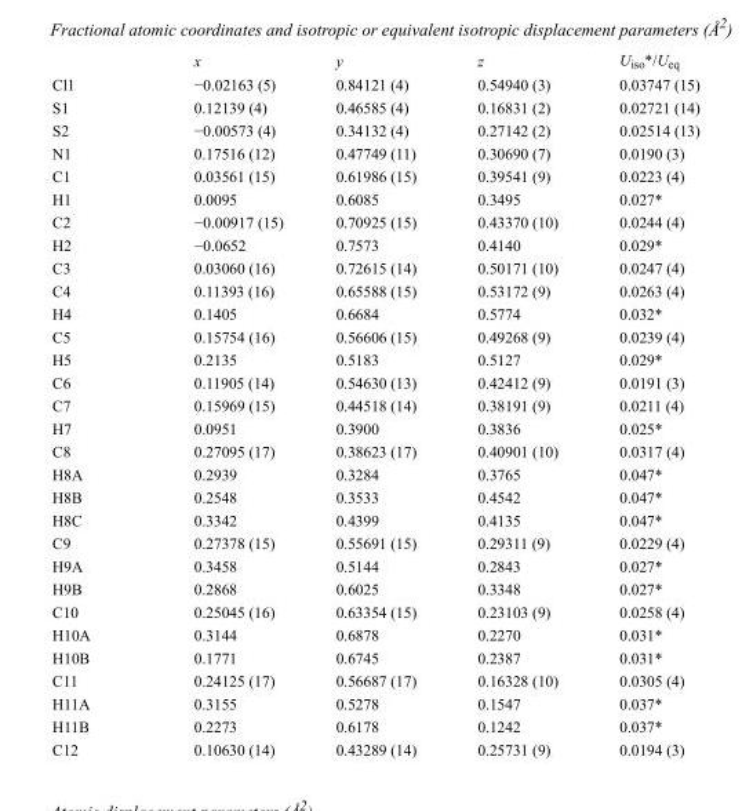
<table><thead><tr><td></td><td>x</td><td>y</td><td>z</td><td>U<sub>iso</sub>*/U<sub>eq</sub></td></tr></thead><tbody><tr><td>Cl1</td><td>−0.02163 (5)</td><td>0.84121 (4)</td><td>0.54940 (3)</td><td>0.03747 (15)</td></tr><tr><td>S1</td><td>0.12139 (4)</td><td>0.46585 (4)</td><td>0.16831 (2)</td><td>0.02721 (14)</td></tr><tr><td>S2</td><td>−0.00573 (4)</td><td>0.34132 (4)</td><td>0.27142 (2)</td><td>0.02514 (13)</td></tr><tr><td>N1</td><td>0.17516 (12)</td><td>0.47749 (11)</td><td>0.30690 (7)</td><td>0.0190 (3)</td></tr><tr><td>C1</td><td>0.03561 (15)</td><td>0.61986 (15)</td><td>0.39541 (9)</td><td>0.0223 (4)</td></tr><tr><td>H1</td><td>0.0095</td><td>0.6085</td><td>0.3495</td><td>0.027*</td></tr><tr><td>C2</td><td>−0.00917 (15)</td><td>0.70925 (15)</td><td>0.43370 (10)</td><td>0.0244 (4)</td></tr><tr><td>H2</td><td>−0.0652</td><td>0.7573</td><td>0.4140</td><td>0.029*</td></tr><tr><td>C3</td><td>0.03060 (16)</td><td>0.72615 (14)</td><td>0.50171 (10)</td><td>0.0247 (4)</td></tr><tr><td>C4</td><td>0.11393 (16)</td><td>0.65588 (15)</td><td>0.53172 (9)</td><td>0.0263 (4)</td></tr><tr><td>H4</td><td>0.1405</td><td>0.6684</td><td>0.5774</td><td>0.032*</td></tr><tr><td>C5</td><td>0.15754 (16)</td><td>0.56606 (15)</td><td>0.49268 (9)</td><td>0.0239 (4)</td></tr><tr><td>H5</td><td>0.2135</td><td>0.5183</td><td>0.5127</td><td>0.029*</td></tr><tr><td>C6</td><td>0.11905 (14)</td><td>0.54630 (13)</td><td>0.42412 (9)</td><td>0.0191 (3)</td></tr><tr><td>C7</td><td>0.15969 (15)</td><td>0.44518 (14)</td><td>0.38191 (9)</td><td>0.0211 (4)</td></tr><tr><td>H7</td><td>0.0951</td><td>0.3900</td><td>0.3836</td><td>0.025*</td></tr><tr><td>C8</td><td>0.27095 (17)</td><td>0.38623 (17)</td><td>0.40901 (10)</td><td>0.0317 (4)</td></tr><tr><td>H8A</td><td>0.2939</td><td>0.3284</td><td>0.3765</td><td>0.047*</td></tr><tr><td>H8B</td><td>0.2548</td><td>0.3533</td><td>0.4542</td><td>0.047*</td></tr><tr><td>H8C</td><td>0.3342</td><td>0.4399</td><td>0.4135</td><td>0.047*</td></tr><tr><td>C9</td><td>0.27378 (15)</td><td>0.55691 (15)</td><td>0.29311 (9)</td><td>0.0229 (4)</td></tr><tr><td>H9A</td><td>0.3458</td><td>0.5144</td><td>0.2843</td><td>0.027*</td></tr><tr><td>H9B</td><td>0.2868</td><td>0.6025</td><td>0.3348</td><td>0.027*</td></tr><tr><td>C10</td><td>0.25045 (16)</td><td>0.63354 (15)</td><td>0.23103 (9)</td><td>0.0258 (4)</td></tr><tr><td>H10A</td><td>0.3144</td><td>0.6878</td><td>0.2270</td><td>0.031*</td></tr><tr><td>H10B</td><td>0.1771</td><td>0.6745</td><td>0.2387</td><td>0.031*</td></tr><tr><td>C11</td><td>0.24125 (17)</td><td>0.56687 (17)</td><td>0.16328 (10)</td><td>0.0305 (4)</td></tr><tr><td>H11A</td><td>0.3155</td><td>0.5278</td><td>0.1547</td><td>0.037*</td></tr><tr><td>H11B</td><td>0.2273</td><td>0.6178</td><td>0.1242</td><td>0.037*</td></tr><tr><td>C12</td><td>0.10630 (14)</td><td>0.43289 (14)</td><td>0.25731 (9)</td><td>0.0194 (3)</td></tr></tbody></table>